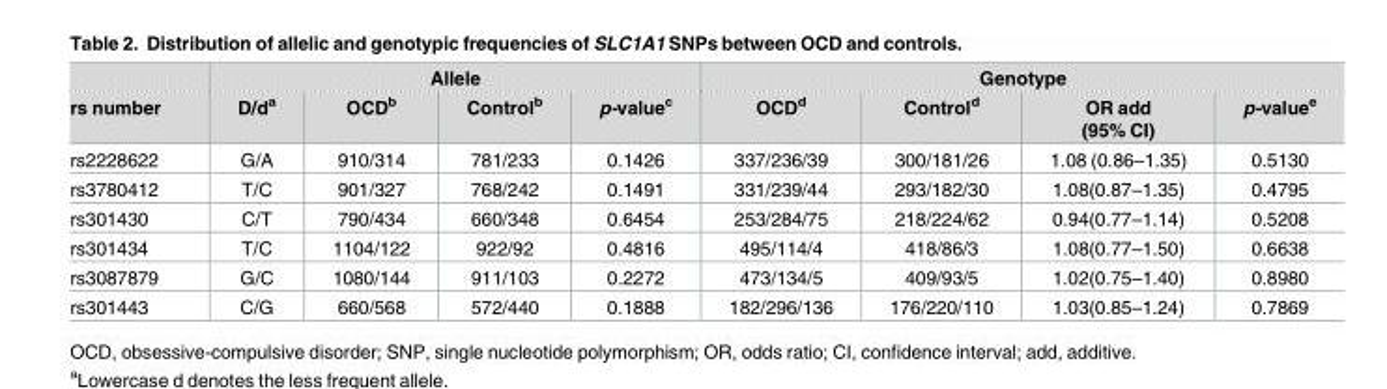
<table><thead><tr><td rowspan="2">rs number</td><td colspan="4">Allele</td><td colspan="4">Genotype</td></tr><tr><td>D/d<sup>a</sup></td><td>OCD<sup>b</sup></td><td>Control<sup>b</sup></td><td>p-value<sup>c</sup></td><td>OCD<sup>d</sup></td><td>Control<sup>d</sup></td><td>OR add (95% CI)</td><td>p-value<sup>e</sup></td></tr></thead><tbody><tr><td>rs2228622</td><td>G/A</td><td>910/314</td><td>781/233</td><td>0.1426</td><td>337/236/39</td><td>300/181/26</td><td>1.08 (0.86–1.35)</td><td>0.5130</td></tr><tr><td>rs3780412</td><td>T/C</td><td>901/327</td><td>768/242</td><td>0.1491</td><td>331/239/44</td><td>293/182/30</td><td>1.08(0.87–1.35)</td><td>0.4795</td></tr><tr><td>rs301430</td><td>C/T</td><td>790/434</td><td>660/348</td><td>0.6454</td><td>253/284/75</td><td>218/224/62</td><td>0.94(0.77–1.14)</td><td>0.5208</td></tr><tr><td>rs301434</td><td>T/C</td><td>1104/122</td><td>922/92</td><td>0.4816</td><td>495/114/4</td><td>418/86/3</td><td>1.08(0.77–1.50)</td><td>0.6638</td></tr><tr><td>rs3087879</td><td>G/C</td><td>1080/144</td><td>911/103</td><td>0.2272</td><td>473/134/5</td><td>409/93/5</td><td>1.02(0.75–1.40)</td><td>0.8980</td></tr><tr><td>rs301443</td><td>C/G</td><td>660/568</td><td>572/440</td><td>0.1888</td><td>182/296/136</td><td>176/220/110</td><td>1.03(0.85–1.24)</td><td>0.7869</td></tr></tbody></table>